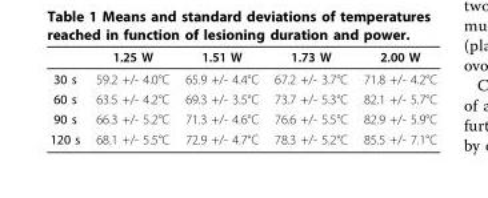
<table><thead><tr><td></td><td>1.25 W</td><td>1.51 W</td><td>1.73 W</td><td>2.00 W</td></tr></thead><tbody><tr><td>30 s</td><td>59.2 +/- 4.0°C</td><td>65.9 +/- 4.4°C</td><td>67.2 +/- 3.7°C</td><td>71.8 +/- 4.2°C</td></tr><tr><td>60 s</td><td>63.5 +/- 4.2°C</td><td>69.3 +/- 3.5°C</td><td>73.7 +/- 5.3°C</td><td>82.1 +/- 5.7°C</td></tr><tr><td>90 s</td><td>66.3 +/- 5.2°C</td><td>71.3 +/- 4.6°C</td><td>76.6 +/- 5.5°C</td><td>82.9 +/- 5.9°C</td></tr><tr><td>120 s</td><td>68.1 +/- 5.5°C</td><td>72.9 +/- 4.7°C</td><td>78.3 +/- 5.2°C</td><td>85.5 +/- 7.1°C</td></tr></tbody></table>